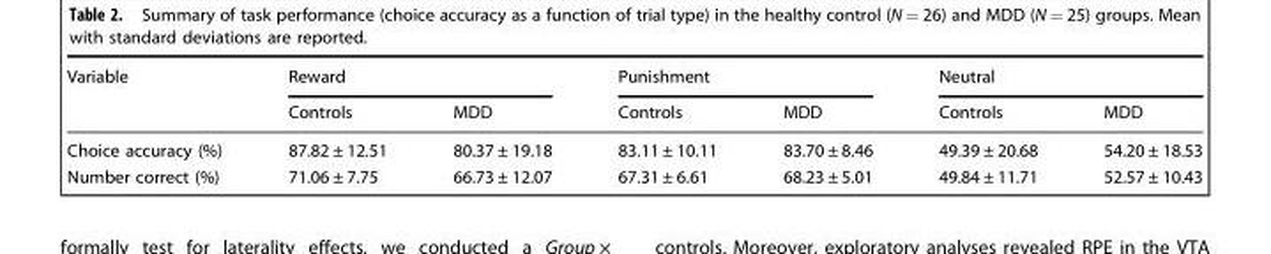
<table><thead><tr><td rowspan="2">Variable</td><td colspan="2">Reward</td><td colspan="2">Punishment</td><td colspan="2">Neutral</td></tr><tr><td>Controls</td><td>MDD</td><td>Controls</td><td>MDD</td><td>Controls</td><td>MDD</td></tr></thead><tbody><tr><td>Choice accuracy (%)</td><td>87.82 ± 12.51</td><td>80.37 ± 19.18</td><td>83.11 ± 10.11</td><td>83.70 ± 8.46</td><td>49.39 ± 20.68</td><td>54.20 ± 18.53</td></tr><tr><td>Number correct (%)</td><td>71.06 ± 7.75</td><td>66.73 ± 12.07</td><td>67.31 ± 6.61</td><td>68.23 ± 5.01</td><td>49.84 ± 11.71</td><td>52.57 ± 10.43</td></tr></tbody></table>